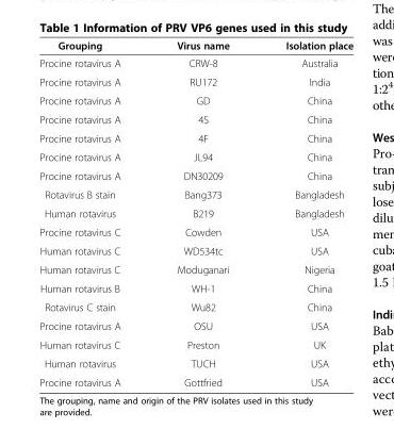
<table><thead><tr><td>Grouping</td><td>Virus name</td><td>Isolation place</td></tr></thead><tbody><tr><td>Procine rotavirus A</td><td>CRW-8</td><td>Australia</td></tr><tr><td>Procine rotavirus A</td><td>RU172</td><td>India</td></tr><tr><td>Procine rotavirus A</td><td>GD</td><td>China</td></tr><tr><td>Procine rotavirus A</td><td>4S</td><td>China</td></tr><tr><td>Procine rotavirus A</td><td>4F</td><td>China</td></tr><tr><td>Procine rotavirus A</td><td>JL94</td><td>China</td></tr><tr><td>Procine rotavirus A</td><td>DN30209</td><td>China</td></tr><tr><td>Rotavirus B stain</td><td>Bang373</td><td>Bangladesh</td></tr><tr><td>Human rotavirus</td><td>B219</td><td>Bangladesh</td></tr><tr><td>Procine rotavirus C</td><td>Cowden</td><td>USA</td></tr><tr><td>Human rotavirus C</td><td>WD534tc</td><td>USA</td></tr><tr><td>Human rotavirus C</td><td>Moduganari</td><td>Nigeria</td></tr><tr><td>Human rotavirus B</td><td>WH-1</td><td>China</td></tr><tr><td>Rotavirus C stain</td><td>Wu82</td><td>China</td></tr><tr><td>Procine rotavirus A</td><td>OSU</td><td>USA</td></tr><tr><td>Human rotavirus C</td><td>Preston</td><td>UK</td></tr><tr><td>Human rotavirus</td><td>TUCH</td><td>USA</td></tr><tr><td>Procine rotavirus A</td><td>Gottfried</td><td>USA</td></tr></tbody></table>